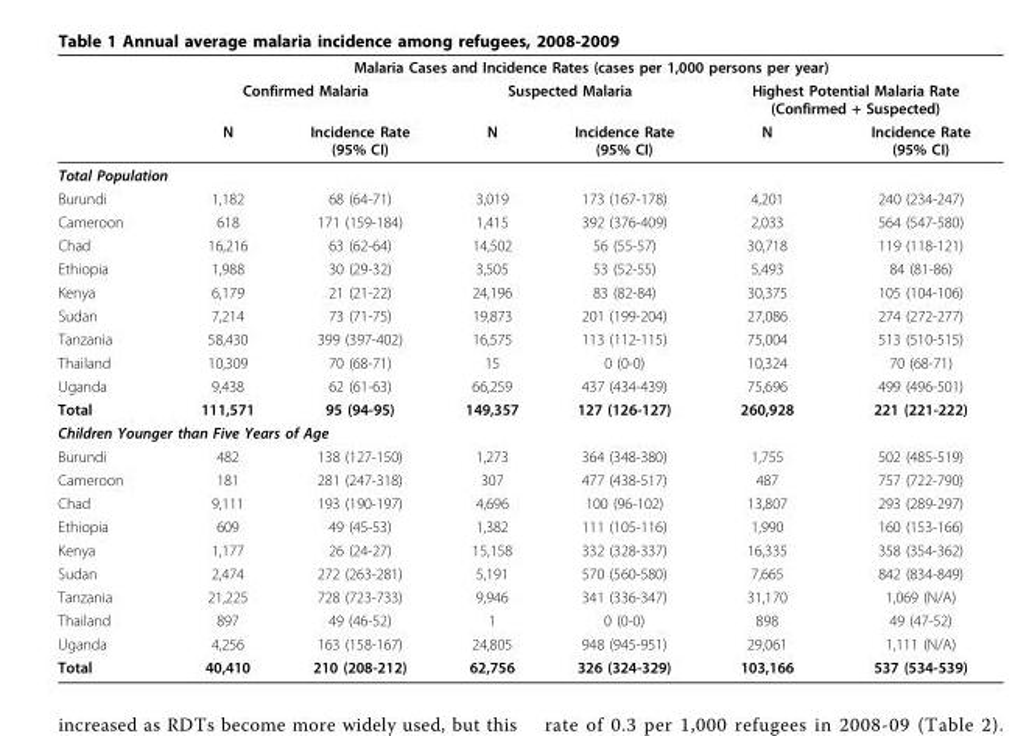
<table><thead><tr><td rowspan="3"></td><td colspan="6">Malaria Cases and Incidence Rates (cases per 1,000 persons per year)</td></tr><tr><td colspan="2">Confirmed Malaria</td><td colspan="2">Suspected Malaria</td><td colspan="2">Highest Potential Malaria Rate (Confirmed + Suspected)</td></tr><tr><td>N</td><td>Incidence Rate (95% CI)</td><td>N</td><td>Incidence Rate (95% CI)</td><td>N</td><td>Incidence Rate (95% CI)</td></tr></thead><tbody><tr><td colspan="7">Total Population</td></tr><tr><td>Burundi</td><td>1,182</td><td>68 (64-71)</td><td>3,019</td><td>173 (167-178)</td><td>4,201</td><td>240 (234-247)</td></tr><tr><td>Cameroon</td><td>618</td><td>171 (159-184)</td><td>1,415</td><td>392 (376-409)</td><td>2,033</td><td>564 (547-580)</td></tr><tr><td>Chad</td><td>16,216</td><td>63 (62-64)</td><td>14,502</td><td>56 (55-57)</td><td>30,718</td><td>119 (118-121)</td></tr><tr><td>Ethiopia</td><td>1,988</td><td>30 (29-32)</td><td>3,505</td><td>53 (52-55)</td><td>5,493</td><td>84 (81-86)</td></tr><tr><td>Kenya</td><td>6,179</td><td>21 (21-22)</td><td>24,196</td><td>83 (82-84)</td><td>30,375</td><td>105 (104-106)</td></tr><tr><td>Sudan</td><td>7,214</td><td>73 (71-75)</td><td>19,873</td><td>201 (199-204)</td><td>27,086</td><td>274 (272-277)</td></tr><tr><td>Tanzania</td><td>58,430</td><td>399 (397-402)</td><td>16,575</td><td>113 (112-115)</td><td>75,004</td><td>513 (510-515)</td></tr><tr><td>Thailand</td><td>10,309</td><td>70 (68-71)</td><td>15</td><td>0 (0-0)</td><td>10,324</td><td>70 (68-71)</td></tr><tr><td>Uganda</td><td>9,438</td><td>62 (61-63)</td><td>66,259</td><td>437 (434-439)</td><td>75,696</td><td>499 (496-501)</td></tr><tr><td>Total</td><td>111,571</td><td>95 (94-95)</td><td>149,357</td><td>127 (126-127)</td><td>260,928</td><td>221 (221-222)</td></tr><tr><td colspan="7">Children Younger than Five Years of Age</td></tr><tr><td>Burundi</td><td>482</td><td>138 (127-150)</td><td>1,273</td><td>364 (348-380)</td><td>1,755</td><td>502 (485-519)</td></tr><tr><td>Cameroon</td><td>181</td><td>281 (247-318)</td><td>307</td><td>477 (438-517)</td><td>487</td><td>757 (722-790)</td></tr><tr><td>Chad</td><td>9,111</td><td>193 (190-197)</td><td>4,696</td><td>100 (96-102)</td><td>13,807</td><td>293 (289-297)</td></tr><tr><td>Ethiopia</td><td>609</td><td>49 (45-53)</td><td>1,382</td><td>111 (105-116)</td><td>1,990</td><td>160 (153-166)</td></tr><tr><td>Kenya</td><td>1,177</td><td>26 (24-27)</td><td>15,158</td><td>332 (328-337)</td><td>16,335</td><td>358 (354-362)</td></tr><tr><td>Sudan</td><td>2,474</td><td>272 (263-281)</td><td>5,191</td><td>570 (560-580)</td><td>7,665</td><td>842 (834-849)</td></tr><tr><td>Tanzania</td><td>21,225</td><td>728 (723-733)</td><td>9,946</td><td>341 (336-347)</td><td>31,170</td><td>1,069 (N/A)</td></tr><tr><td>Thailand</td><td>897</td><td>49 (46-52)</td><td>1</td><td>0 (0-0)</td><td>898</td><td>49 (47-52)</td></tr><tr><td>Uganda</td><td>4,256</td><td>163 (158-167)</td><td>24,805</td><td>948 (945-951)</td><td>29,061</td><td>1,111 (N/A)</td></tr><tr><td>Total</td><td>40,410</td><td>210 (208-212)</td><td>62,756</td><td>326 (324-329)</td><td>103,166</td><td>537 (534-539)</td></tr></tbody></table>